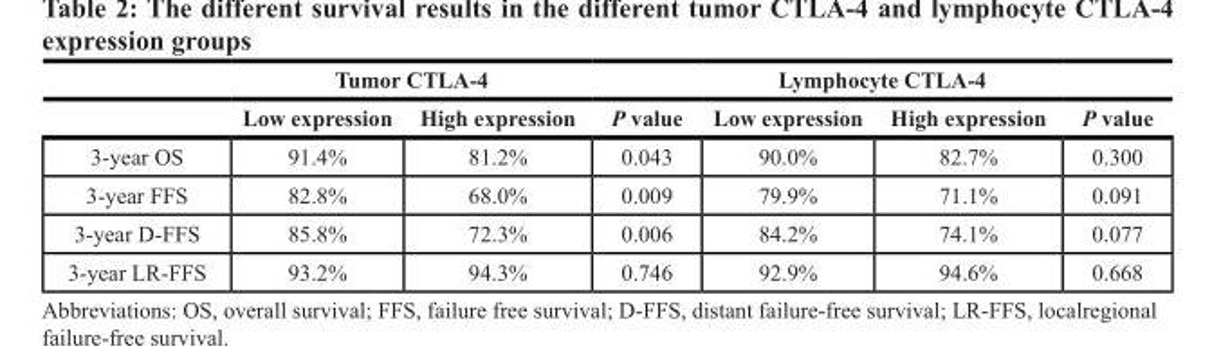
<table><thead><tr><td rowspan="2"></td><td colspan="2">Tumor CTLA-4</td><td rowspan="2">P value</td><td colspan="2">Lymphocyte CTLA-4</td><td rowspan="2">P value</td></tr><tr><td>Low expression</td><td>High expression</td><td>Low expression</td><td>High expression</td></tr></thead><tbody><tr><td>3-year OS</td><td>91.4%</td><td>81.2%</td><td>0.043</td><td>90.0%</td><td>82.7%</td><td>0.300</td></tr><tr><td>3-year FFS</td><td>82.8%</td><td>68.0%</td><td>0.009</td><td>79.9%</td><td>71.1%</td><td>0.091</td></tr><tr><td>3-year D-FFS</td><td>85.8%</td><td>72.3%</td><td>0.006</td><td>84.2%</td><td>74.1%</td><td>0.077</td></tr><tr><td>3-year LR-FFS</td><td>93.2%</td><td>94.3%</td><td>0.746</td><td>92.9%</td><td>94.6%</td><td>0.668</td></tr></tbody></table>